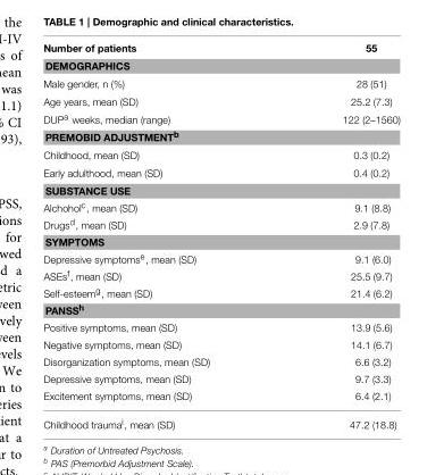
<table><tbody><tr><td>Number of patients</td><td>55</td></tr><tr><td colspan="2">DEMOGRAPHICS</td></tr><tr><td>Male gender, n (%)</td><td>28 (51)</td></tr><tr><td>Age years, mean (SD)</td><td>25.2 (7.3)</td></tr><tr><td>DUP<sup>a</sup> weeks, median (range)</td><td>122 (2–1560)</td></tr><tr><td colspan="2">PREMOBID ADJUSTMENT<sup>b</sup></td></tr><tr><td>Childhood, mean (SD)</td><td>0.3 (0.2)</td></tr><tr><td>Early adulthood, mean (SD)</td><td>0.4 (0.2)</td></tr><tr><td colspan="2">SUBSTANCE USE</td></tr><tr><td>Alchohol<sup>c</sup>, mean (SD)</td><td>9.1 (8.8)</td></tr><tr><td>Drugs<sup>d</sup>, mean (SD)</td><td>2.9 (7.8)</td></tr><tr><td colspan="2">SYMPTOMS</td></tr><tr><td>Depressive symptoms<sup>e</sup>, mean (SD)</td><td>9.1 (6.0)</td></tr><tr><td>ASEs<sup>f</sup>, mean (SD)</td><td>25.5 (9.7)</td></tr><tr><td>Self-esteem<sup>g</sup>, mean (SD)</td><td>21.4 (6.2)</td></tr><tr><td colspan="2">PANSS<sup>h</sup></td></tr><tr><td>Positive symptoms, mean (SD)</td><td>13.9 (5.6)</td></tr><tr><td>Negative symptoms, mean (SD)</td><td>14.1 (6.7)</td></tr><tr><td>Disorganization symptoms, mean (SD)</td><td>6.6 (3.2)</td></tr><tr><td>Depressive symptoms, mean (SD)</td><td>9.7 (3.3)</td></tr><tr><td>Excitement symptoms, mean (SD)</td><td>6.4 (2.1)</td></tr><tr><td>Childhood trauma<sup>i</sup>, mean (SD)</td><td>47.2 (18.8)</td></tr></tbody></table>